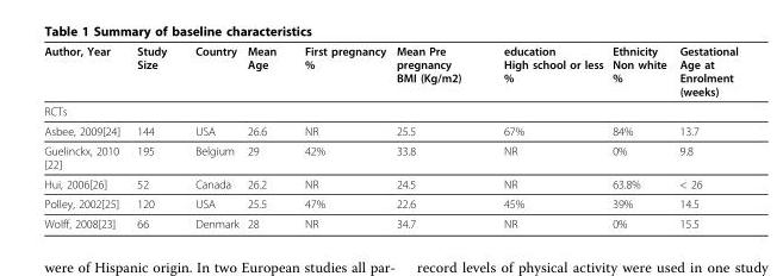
<table><thead><tr><td>Author, Year</td><td>Study Size</td><td>Country</td><td>Mean Age</td><td>First pregnancy %</td><td>Mean Pre pregnancy BMI (Kg/m2)</td><td>education High school or less %</td><td>Ethnicity Non white %</td><td>Gestational Age at Enrolment (weeks)</td></tr></thead><tbody><tr><td colspan="9">RCTs</td></tr><tr><td>Asbee, 2009[24]</td><td>144</td><td>USA</td><td>26.6</td><td>NR</td><td>25.5</td><td>67%</td><td>84%</td><td>13.7</td></tr><tr><td>Guelinckx, 2010 [22]</td><td>195</td><td>Belgium</td><td>29</td><td>42%</td><td>33.8</td><td>NR</td><td>0%</td><td>9.8</td></tr><tr><td>Hui, 2006[26]</td><td>52</td><td>Canada</td><td>26.2</td><td>NR</td><td>24.5</td><td>NR</td><td>63.8%</td><td>&lt; 26</td></tr><tr><td>Polley, 2002[25]</td><td>120</td><td>USA</td><td>25.5</td><td>47%</td><td>22.6</td><td>45%</td><td>39%</td><td>14.5</td></tr><tr><td>Wolff, 2008[23]</td><td>66</td><td>Denmark</td><td>28</td><td>NR</td><td>34.7</td><td>NR</td><td>0%</td><td>15.5</td></tr></tbody></table>